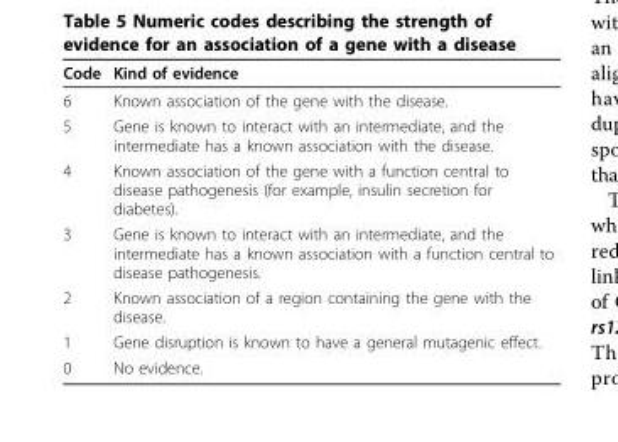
<table><thead><tr><td>Code</td><td>Kind of evidence</td></tr></thead><tbody><tr><td>6</td><td>Known association of the gene with the disease.</td></tr><tr><td>5</td><td>Gene is known to interact with an intermediate, and the intermediate has a known association with the disease.</td></tr><tr><td>4</td><td>Known association of the gene with a function central to disease pathogenesis (for example, insulin secretion for diabetes).</td></tr><tr><td>3</td><td>Gene is known to interact with an intermediate, and the intermediate has a known association with a function central to disease pathogenesis.</td></tr><tr><td>2</td><td>Known association of a region containing the gene with the disease.</td></tr><tr><td>1</td><td>Gene disruption is known to have a general mutagenic effect.</td></tr><tr><td>0</td><td>No evidence.</td></tr></tbody></table>